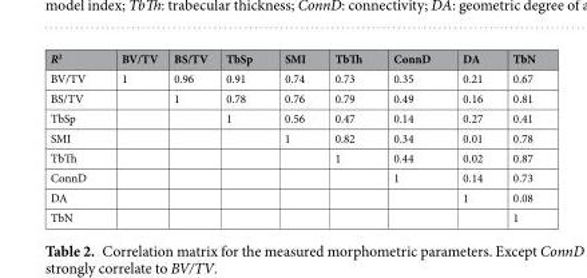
<table><thead><tr><td>R<sup>2</sup></td><td>BV/TV</td><td>BS/TV</td><td>TbSp</td><td>SMI</td><td>TbTh</td><td>ConnD</td><td>DA</td><td>TbN</td></tr></thead><tbody><tr><td>BV/TV</td><td>1</td><td>0.96</td><td>0.91</td><td>0.74</td><td>0.73</td><td>0.35</td><td>0.21</td><td>0.67</td></tr><tr><td>BS/TV</td><td></td><td>1</td><td>0.78</td><td>0.76</td><td>0.79</td><td>0.49</td><td>0.16</td><td>0.81</td></tr><tr><td>TbSp</td><td></td><td></td><td>1</td><td>0.56</td><td>0.47</td><td>0.14</td><td>0.27</td><td>0.41</td></tr><tr><td>SMI</td><td></td><td></td><td></td><td>1</td><td>0.82</td><td>0.34</td><td>0.01</td><td>0.78</td></tr><tr><td>TbTh</td><td></td><td></td><td></td><td></td><td>1</td><td>0.44</td><td>0.02</td><td>0.87</td></tr><tr><td>ConnD</td><td></td><td></td><td></td><td></td><td></td><td>1</td><td>0.14</td><td>0.73</td></tr><tr><td>DA</td><td></td><td></td><td></td><td></td><td></td><td></td><td>1</td><td>0.08</td></tr><tr><td>TbN</td><td></td><td></td><td></td><td></td><td></td><td></td><td></td><td>1</td></tr></tbody></table>